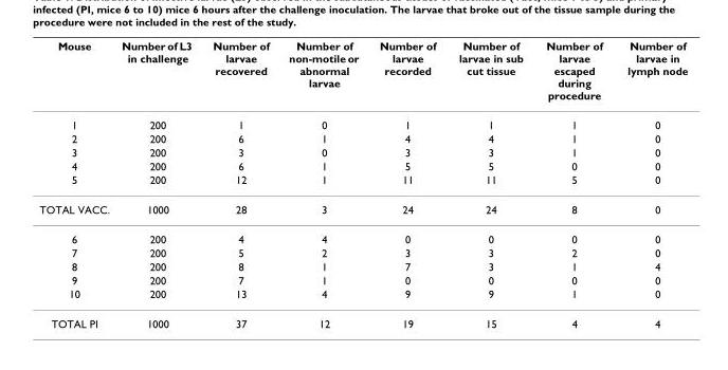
<table><thead><tr><td>Mouse</td><td>Number of L3 in challenge</td><td>Number of larvae recovered</td><td>Number of non-motile or abnormal larvae</td><td>Number of larvae recorded</td><td>Number of larvae in sub cut tissue</td><td>Number of larvae escaped during procedure</td><td>Number of larvae in lymph node</td></tr></thead><tbody><tr><td>1</td><td>200</td><td>1</td><td>0</td><td>1</td><td>1</td><td>1</td><td>0</td></tr><tr><td>2</td><td>200</td><td>6</td><td>1</td><td>4</td><td>4</td><td>1</td><td>0</td></tr><tr><td>3</td><td>200</td><td>3</td><td>0</td><td>3</td><td>3</td><td>1</td><td>0</td></tr><tr><td>4</td><td>200</td><td>6</td><td>1</td><td>5</td><td>5</td><td>0</td><td>0</td></tr><tr><td>5</td><td>200</td><td>12</td><td>1</td><td>11</td><td>11</td><td>5</td><td>0</td></tr><tr><td>TOTAL VACC.</td><td>1000</td><td>28</td><td>3</td><td>24</td><td>24</td><td>8</td><td>0</td></tr><tr><td>6</td><td>200</td><td>4</td><td>4</td><td>0</td><td>0</td><td>0</td><td>0</td></tr><tr><td>7</td><td>200</td><td>5</td><td>2</td><td>3</td><td>3</td><td>2</td><td>0</td></tr><tr><td>8</td><td>200</td><td>8</td><td>1</td><td>7</td><td>3</td><td>1</td><td>4</td></tr><tr><td>9</td><td>200</td><td>7</td><td>1</td><td>0</td><td>0</td><td>0</td><td>0</td></tr><tr><td>10</td><td>200</td><td>13</td><td>4</td><td>9</td><td>9</td><td>1</td><td>0</td></tr><tr><td>TOTAL PI</td><td>1000</td><td>37</td><td>12</td><td>19</td><td>15</td><td>4</td><td>4</td></tr></tbody></table>